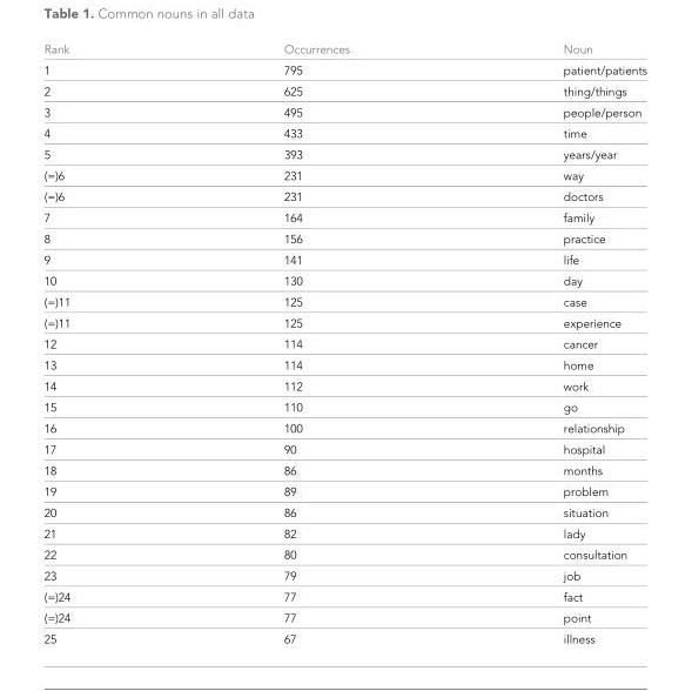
<table><thead><tr><td>Rank</td><td>Occurrences</td><td>Noun</td></tr></thead><tbody><tr><td>1</td><td>795</td><td>patient/patients</td></tr><tr><td>2</td><td>625</td><td>thing/things</td></tr><tr><td>3</td><td>495</td><td>people/person</td></tr><tr><td>4</td><td>433</td><td>time</td></tr><tr><td>5</td><td>393</td><td>years/year</td></tr><tr><td>(=)6</td><td>231</td><td>way</td></tr><tr><td>(=)6</td><td>231</td><td>doctors</td></tr><tr><td>7</td><td>164</td><td>family</td></tr><tr><td>8</td><td>156</td><td>practice</td></tr><tr><td>9</td><td>141</td><td>life</td></tr><tr><td>10</td><td>130</td><td>day</td></tr><tr><td>(=)11</td><td>125</td><td>case</td></tr><tr><td>(=)11</td><td>125</td><td>experience</td></tr><tr><td>12</td><td>114</td><td>cancer</td></tr><tr><td>13</td><td>114</td><td>home</td></tr><tr><td>14</td><td>112</td><td>work</td></tr><tr><td>15</td><td>110</td><td>go</td></tr><tr><td>16</td><td>100</td><td>relationship</td></tr><tr><td>17</td><td>90</td><td>hospital</td></tr><tr><td>18</td><td>86</td><td>months</td></tr><tr><td>19</td><td>89</td><td>problem</td></tr><tr><td>20</td><td>86</td><td>situation</td></tr><tr><td>21</td><td>82</td><td>lady</td></tr><tr><td>22</td><td>80</td><td>consultation</td></tr><tr><td>23</td><td>79</td><td>job</td></tr><tr><td>(=)24</td><td>77</td><td>fact</td></tr><tr><td>(=)24</td><td>77</td><td>point</td></tr><tr><td>25</td><td>67</td><td>illness</td></tr></tbody></table>